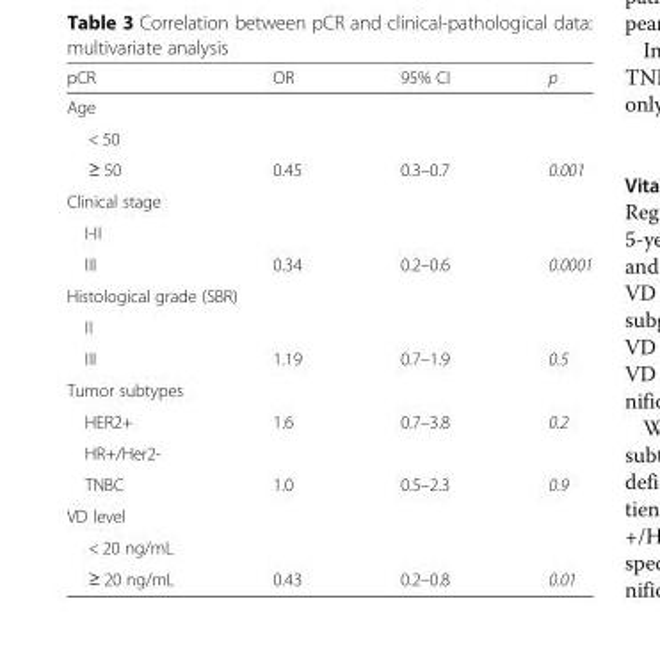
<table><thead><tr><td>pCR</td><td>OR</td><td>95% CI</td><td>p</td></tr></thead><tbody><tr><td colspan="4">Age</td></tr><tr><td colspan="4">&lt; 50</td></tr><tr><td>≥ 50</td><td>0.45</td><td>0.3–0.7</td><td>0.001</td></tr><tr><td colspan="4">Clinical stage</td></tr><tr><td colspan="4">I-II</td></tr><tr><td>III</td><td>0.34</td><td>0.2–0.6</td><td>0.0001</td></tr><tr><td colspan="4">Histological grade (SBR)</td></tr><tr><td colspan="4">II</td></tr><tr><td>III</td><td>1.19</td><td>0.7–1.9</td><td>0.5</td></tr><tr><td colspan="4">Tumor subtypes</td></tr><tr><td>HER2+</td><td>1.6</td><td>0.7–3.8</td><td>0.2</td></tr><tr><td colspan="4">HR+/Her2-</td></tr><tr><td>TNBC</td><td>1.0</td><td>0.5–2.3</td><td>0.9</td></tr><tr><td colspan="4">VD level</td></tr><tr><td colspan="4">&lt; 20 ng/mL</td></tr><tr><td>≥ 20 ng/mL</td><td>0.43</td><td>0.2–0.8</td><td>0.01</td></tr></tbody></table>